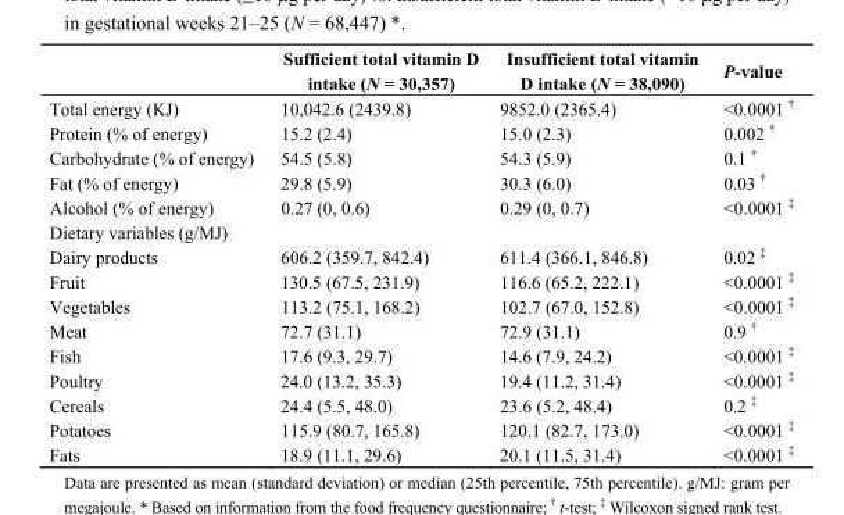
<table><thead><tr><td></td><td>Sufficient total vitamin D intake (N = 30,357)</td><td>Insufficient total vitamin D intake (N = 38,090)</td><td>P-value</td></tr></thead><tbody><tr><td>Total energy (KJ)</td><td>10,042.6 (2439.8)</td><td>9852.0 (2365.4)</td><td>&lt;0.0001 <sup>†</sup></td></tr><tr><td>Protein (% of energy)</td><td>15.2 (2.4)</td><td>15.0 (2.3)</td><td>0.002 <sup>†</sup></td></tr><tr><td>Carbohydrate (% of energy)</td><td>54.5 (5.8)</td><td>54.3 (5.9)</td><td>0.1 <sup>†</sup></td></tr><tr><td>Fat (% of energy)</td><td>29.8 (5.9)</td><td>30.3 (6.0)</td><td>0.03 <sup>†</sup></td></tr><tr><td>Alcohol (% of energy)</td><td>0.27 (0, 0.6)</td><td>0.29 (0, 0.7)</td><td>&lt;0.0001 <sup>‡</sup></td></tr><tr><td colspan="4">Dietary variables (g/MJ)</td></tr><tr><td>Dairy products</td><td>606.2 (359.7, 842.4)</td><td>611.4 (366.1, 846.8)</td><td>0.02 <sup>‡</sup></td></tr><tr><td>Fruit</td><td>130.5 (67.5, 231.9)</td><td>116.6 (65.2, 222.1)</td><td>&lt;0.0001 <sup>‡</sup></td></tr><tr><td>Vegetables</td><td>113.2 (75.1, 168.2)</td><td>102.7 (67.0, 152.8)</td><td>&lt;0.0001 <sup>‡</sup></td></tr><tr><td>Meat</td><td>72.7 (31.1)</td><td>72.9 (31.1)</td><td>0.9 <sup>†</sup></td></tr><tr><td>Fish</td><td>17.6 (9.3, 29.7)</td><td>14.6 (7.9, 24.2)</td><td>&lt;0.0001 <sup>‡</sup></td></tr><tr><td>Poultry</td><td>24.0 (13.2, 35.3)</td><td>19.4 (11.2, 31.4)</td><td>&lt;0.0001 <sup>‡</sup></td></tr><tr><td>Cereals</td><td>24.4 (5.5, 48.0)</td><td>23.6 (5.2, 48.4)</td><td>0.2 <sup>‡</sup></td></tr><tr><td>Potatoes</td><td>115.9 (80.7, 165.8)</td><td>120.1 (82.7, 173.0)</td><td>&lt;0.0001 <sup>‡</sup></td></tr><tr><td>Fats</td><td>18.9 (11.1, 29.6)</td><td>20.1 (11.5, 31.4)</td><td>&lt;0.0001 <sup>‡</sup></td></tr></tbody></table>